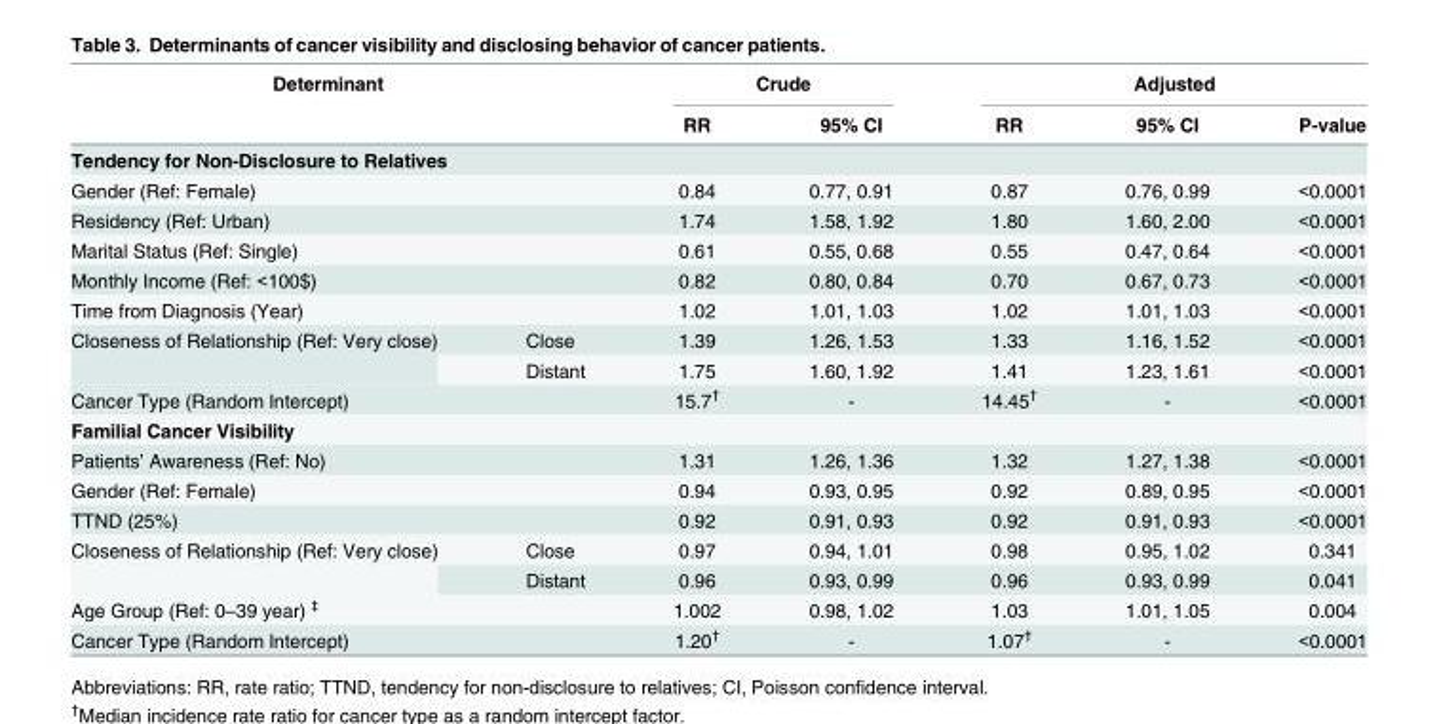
<table><thead><tr><td rowspan="2" colspan="2">Determinant</td><td colspan="2">Crude</td><td colspan="3">Adjusted</td></tr><tr><td>RR</td><td>95% CI</td><td>RR</td><td>95% CI</td><td>P-value</td></tr></thead><tbody><tr><td colspan="7">Tendency for Non-Disclosure to Relatives</td></tr><tr><td colspan="2">Gender (Ref: Female)</td><td>0.84</td><td>0.77, 0.91</td><td>0.87</td><td>0.76, 0.99</td><td>&lt;0.0001</td></tr><tr><td colspan="2">Residency (Ref: Urban)</td><td>1.74</td><td>1.58, 1.92</td><td>1.80</td><td>1.60, 2.00</td><td>&lt;0.0001</td></tr><tr><td colspan="2">Marital Status (Ref: Single)</td><td>0.61</td><td>0.55, 0.68</td><td>0.55</td><td>0.47, 0.64</td><td>&lt;0.0001</td></tr><tr><td colspan="2">Monthly Income (Ref: &lt;100$)</td><td>0.82</td><td>0.80, 0.84</td><td>0.70</td><td>0.67, 0.73</td><td>&lt;0.0001</td></tr><tr><td colspan="2">Time from Diagnosis (Year)</td><td>1.02</td><td>1.01, 1.03</td><td>1.02</td><td>1.01, 1.03</td><td>&lt;0.0001</td></tr><tr><td rowspan="2">Closeness of Relationship (Ref: Very close)</td><td>Close</td><td>1.39</td><td>1.26, 1.53</td><td>1.33</td><td>1.16, 1.52</td><td>&lt;0.0001</td></tr><tr><td>Distant</td><td>1.75</td><td>1.60, 1.92</td><td>1.41</td><td>1.23, 1.61</td><td>&lt;0.0001</td></tr><tr><td colspan="2">Cancer Type (Random Intercept)</td><td>15.7<sup>†</sup></td><td>-</td><td>14.45<sup>†</sup></td><td>-</td><td>&lt;0.0001</td></tr><tr><td colspan="7">Familial Cancer Visibility</td></tr><tr><td colspan="2">Patients’ Awareness (Ref: No)</td><td>1.31</td><td>1.26, 1.36</td><td>1.32</td><td>1.27, 1.38</td><td>&lt;0.0001</td></tr><tr><td colspan="2">Gender (Ref: Female)</td><td>0.94</td><td>0.93, 0.95</td><td>0.92</td><td>0.89, 0.95</td><td>&lt;0.0001</td></tr><tr><td colspan="2">TTND (25%)</td><td>0.92</td><td>0.91, 0.93</td><td>0.92</td><td>0.91, 0.93</td><td>&lt;0.0001</td></tr><tr><td rowspan="2">Closeness of Relationship (Ref: Very close)</td><td>Close</td><td>0.97</td><td>0.94, 1.01</td><td>0.98</td><td>0.95, 1.02</td><td>0.341</td></tr><tr><td>Distant</td><td>0.96</td><td>0.93, 0.99</td><td>0.96</td><td>0.93, 0.99</td><td>0.041</td></tr><tr><td colspan="2">Age Group (Ref: 0–39 year) <sup>‡</sup></td><td>1.002</td><td>0.98, 1.02</td><td>1.03</td><td>1.01, 1.05</td><td>0.004</td></tr><tr><td colspan="2">Cancer Type (Random Intercept)</td><td>1.20<sup>†</sup></td><td>-</td><td>1.07<sup>†</sup></td><td>-</td><td>&lt;0.0001</td></tr></tbody></table>